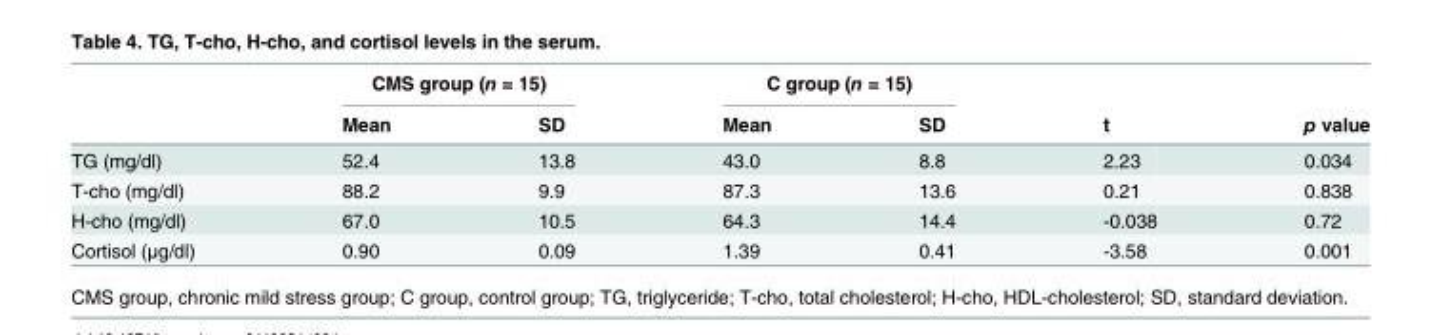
<table><thead><tr><td rowspan="2"></td><td colspan="2">CMS group (n = 15)</td><td colspan="2">C group (n = 15)</td><td rowspan="2">t</td><td rowspan="2">p value</td></tr><tr><td>Mean</td><td>SD</td><td>Mean</td><td>SD</td></tr></thead><tbody><tr><td>TG (mg/dl)</td><td>52.4</td><td>13.8</td><td>43.0</td><td>8.8</td><td>2.23</td><td>0.034</td></tr><tr><td>T-cho (mg/dl)</td><td>88.2</td><td>9.9</td><td>87.3</td><td>13.6</td><td>0.21</td><td>0.838</td></tr><tr><td>H-cho (mg/dl)</td><td>67.0</td><td>10.5</td><td>64.3</td><td>14.4</td><td>-0.038</td><td>0.72</td></tr><tr><td>Cortisol (μg/dl)</td><td>0.90</td><td>0.09</td><td>1.39</td><td>0.41</td><td>-3.58</td><td>0.001</td></tr></tbody></table>